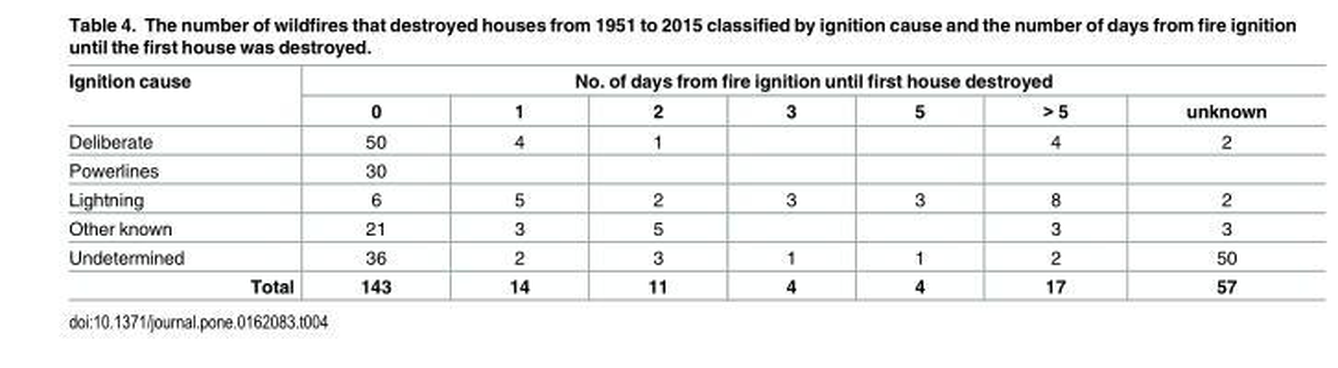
<table><thead><tr><td rowspan="2">Ignition cause</td><td colspan="7">No. of days from fire ignition until first house destroyed</td></tr><tr><td>0</td><td>1</td><td>2</td><td>3</td><td>5</td><td>&gt; 5</td><td>unknown</td></tr></thead><tbody><tr><td>Deliberate</td><td>50</td><td>4</td><td>1</td><td></td><td></td><td>4</td><td>2</td></tr><tr><td>Powerlines</td><td>30</td><td></td><td></td><td></td><td></td><td></td><td></td></tr><tr><td>Lightning</td><td>6</td><td>5</td><td>2</td><td>3</td><td>3</td><td>8</td><td>2</td></tr><tr><td>Other known</td><td>21</td><td>3</td><td>5</td><td></td><td></td><td>3</td><td>3</td></tr><tr><td>Undetermined</td><td>36</td><td>2</td><td>3</td><td>1</td><td>1</td><td>2</td><td>50</td></tr><tr><td>Total</td><td>143</td><td>14</td><td>11</td><td>4</td><td>4</td><td>17</td><td>57</td></tr></tbody></table>